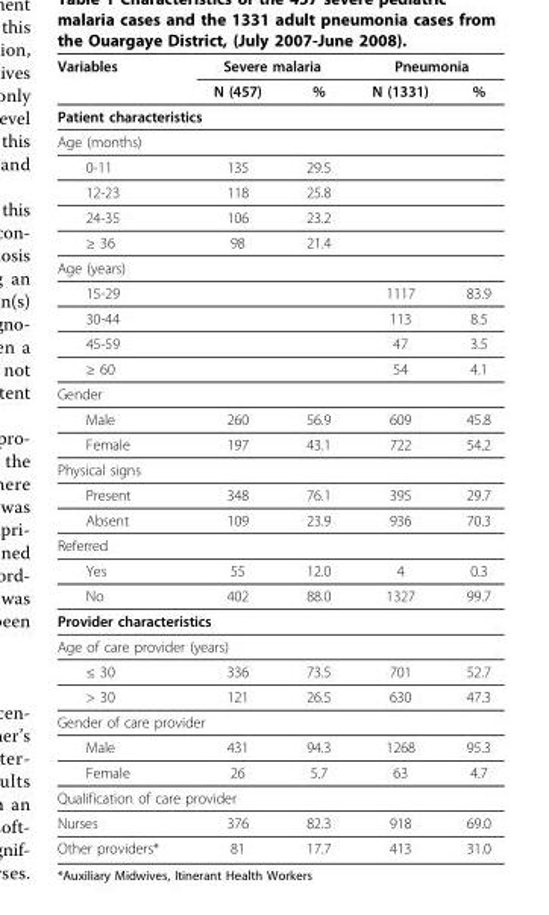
<table><thead><tr><td rowspan="2">Variables</td><td colspan="2">Severe malaria</td><td colspan="2">Pneumonia</td></tr><tr><td>N (457)</td><td>%</td><td>N (1331)</td><td>%</td></tr></thead><tbody><tr><td colspan="5">Patient characteristics</td></tr><tr><td colspan="5">Age (months)</td></tr><tr><td>0-11</td><td>135</td><td>29.5</td><td></td><td></td></tr><tr><td>12-23</td><td>118</td><td>25.8</td><td></td><td></td></tr><tr><td>24-35</td><td>106</td><td>23.2</td><td></td><td></td></tr><tr><td>≥ 36</td><td>98</td><td>21.4</td><td></td><td></td></tr><tr><td colspan="5">Age (years)</td></tr><tr><td>15-29</td><td></td><td></td><td>1117</td><td>83.9</td></tr><tr><td>30-44</td><td></td><td></td><td>113</td><td>8.5</td></tr><tr><td>45-59</td><td></td><td></td><td>47</td><td>3.5</td></tr><tr><td>≥ 60</td><td></td><td></td><td>54</td><td>4.1</td></tr><tr><td colspan="5">Gender</td></tr><tr><td>Male</td><td>260</td><td>56.9</td><td>609</td><td>45.8</td></tr><tr><td>Female</td><td>197</td><td>43.1</td><td>722</td><td>54.2</td></tr><tr><td colspan="5">Physical signs</td></tr><tr><td>Present</td><td>348</td><td>76.1</td><td>395</td><td>29.7</td></tr><tr><td>Absent</td><td>109</td><td>23.9</td><td>936</td><td>70.3</td></tr><tr><td colspan="5">Referred</td></tr><tr><td>Yes</td><td>55</td><td>12.0</td><td>4</td><td>0.3</td></tr><tr><td>No</td><td>402</td><td>88.0</td><td>1327</td><td>99.7</td></tr><tr><td colspan="5">Provider characteristics</td></tr><tr><td colspan="5">Age of care provider (years)</td></tr><tr><td>≤ 30</td><td>336</td><td>73.5</td><td>701</td><td>52.7</td></tr><tr><td>&gt; 30</td><td>121</td><td>26.5</td><td>630</td><td>47.3</td></tr><tr><td colspan="5">Gender of care provider</td></tr><tr><td>Male</td><td>431</td><td>94.3</td><td>1268</td><td>95.3</td></tr><tr><td>Female</td><td>26</td><td>5.7</td><td>63</td><td>4.7</td></tr><tr><td colspan="5">Qualification of care provider</td></tr><tr><td>Nurses</td><td>376</td><td>82.3</td><td>918</td><td>69.0</td></tr><tr><td>Other providers*</td><td>81</td><td>17.7</td><td>413</td><td>31.0</td></tr></tbody></table>